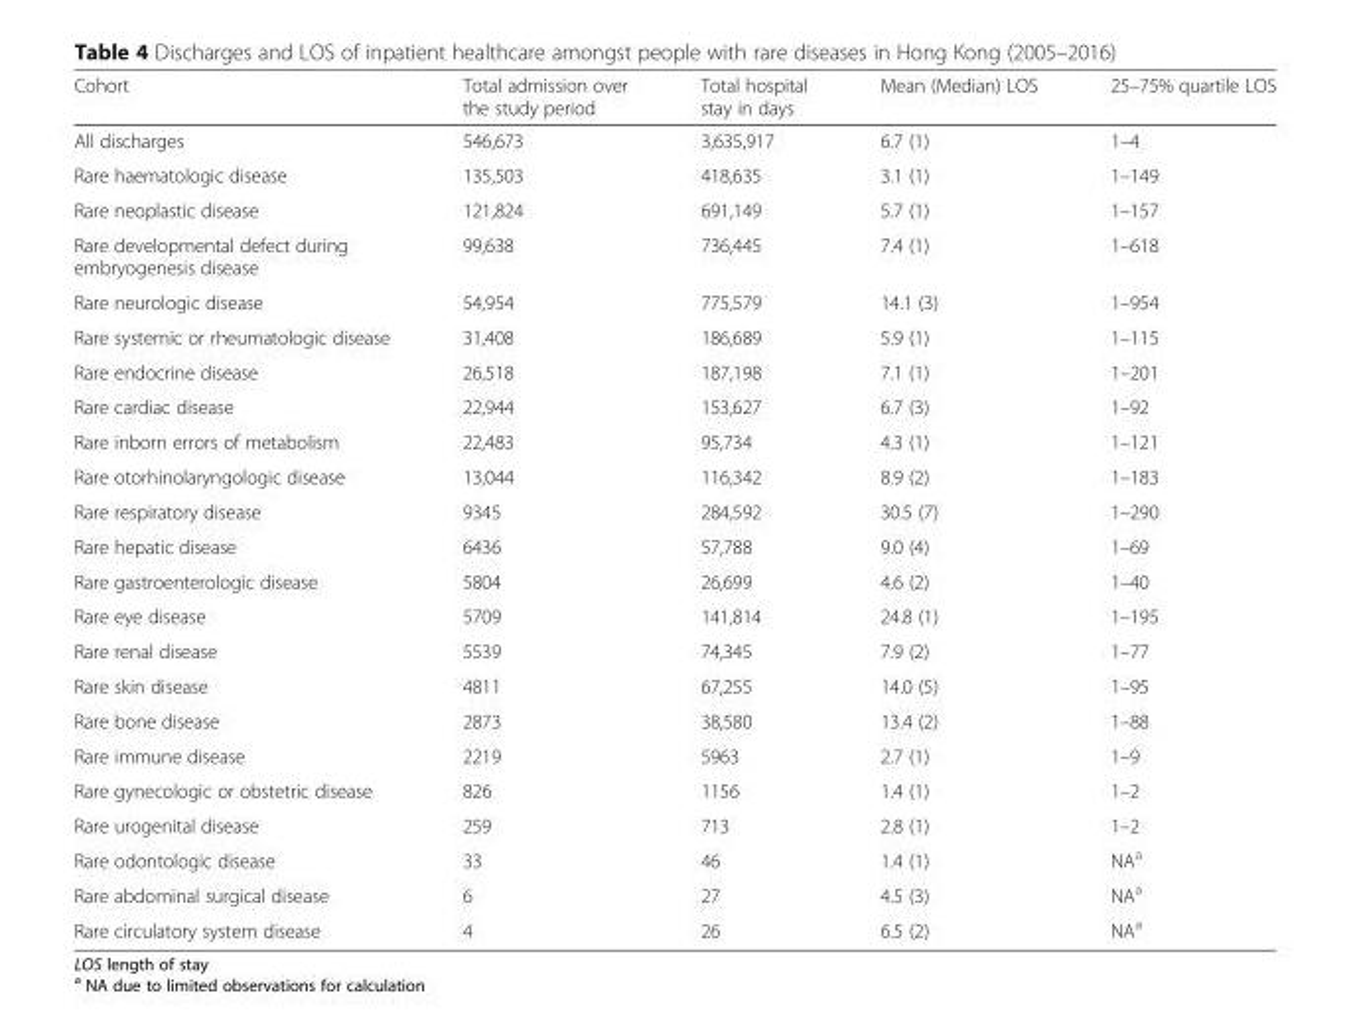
<table><thead><tr><td>Cohort</td><td>Total admission over the study period</td><td>Total hospital stay in days</td><td>Mean (Median) LOS</td><td>25–75% quartile LOS</td></tr></thead><tbody><tr><td>All discharges</td><td>546,673</td><td>3,635,917</td><td>6.7 (1)</td><td>1–4</td></tr><tr><td>Rare haematologic disease</td><td>135,503</td><td>418,635</td><td>3.1 (1)</td><td>1–149</td></tr><tr><td>Rare neoplastic disease</td><td>121,824</td><td>691,149</td><td>5.7 (1)</td><td>1–157</td></tr><tr><td>Rare developmental defect during embryogenesis disease</td><td>99,638</td><td>736,445</td><td>7.4 (1)</td><td>1–618</td></tr><tr><td>Rare neurologic disease</td><td>54,954</td><td>775,579</td><td>14.1 (3)</td><td>1–954</td></tr><tr><td>Rare systemic or rheumatologic disease</td><td>31,408</td><td>186,689</td><td>5.9 (1)</td><td>1–115</td></tr><tr><td>Rare endocrine disease</td><td>26,518</td><td>187,198</td><td>7.1 (1)</td><td>1–201</td></tr><tr><td>Rare cardiac disease</td><td>22,944</td><td>153,627</td><td>6.7 (3)</td><td>1–92</td></tr><tr><td>Rare inborn errors of metabolism</td><td>22,483</td><td>95,734</td><td>4.3 (1)</td><td>1–121</td></tr><tr><td>Rare otorhinolaryngologic disease</td><td>13,044</td><td>116,342</td><td>8.9 (2)</td><td>1–183</td></tr><tr><td>Rare respiratory disease</td><td>9345</td><td>284,592</td><td>30.5 (7)</td><td>1–290</td></tr><tr><td>Rare hepatic disease</td><td>6436</td><td>57,788</td><td>9.0 (4)</td><td>1–69</td></tr><tr><td>Rare gastroenterologic disease</td><td>5804</td><td>26,699</td><td>4.6 (2)</td><td>1–40</td></tr><tr><td>Rare eye disease</td><td>5709</td><td>141,814</td><td>24.8 (1)</td><td>1–195</td></tr><tr><td>Rare renal disease</td><td>5539</td><td>74,345</td><td>7.9 (2)</td><td>1–77</td></tr><tr><td>Rare skin disease</td><td>4811</td><td>67,255</td><td>14.0 (5)</td><td>1–95</td></tr><tr><td>Rare bone disease</td><td>2873</td><td>38,580</td><td>13.4 (2)</td><td>1–88</td></tr><tr><td>Rare immune disease</td><td>2219</td><td>5963</td><td>2.7 (1)</td><td>1–9</td></tr><tr><td>Rare gynecologic or obstetric disease</td><td>826</td><td>1156</td><td>1.4 (1)</td><td>1–2</td></tr><tr><td>Rare urogenital disease</td><td>259</td><td>713</td><td>2.8 (1)</td><td>1–2</td></tr><tr><td>Rare odontologic disease</td><td>33</td><td>46</td><td>1.4 (1)</td><td>NA<sup>a</sup></td></tr><tr><td>Rare abdominal surgical disease</td><td>6</td><td>27</td><td>4.5 (3)</td><td>NA<sup>a</sup></td></tr><tr><td>Rare circulatory system disease</td><td>4</td><td>26</td><td>6.5 (2)</td><td>NA<sup>a</sup></td></tr></tbody></table>